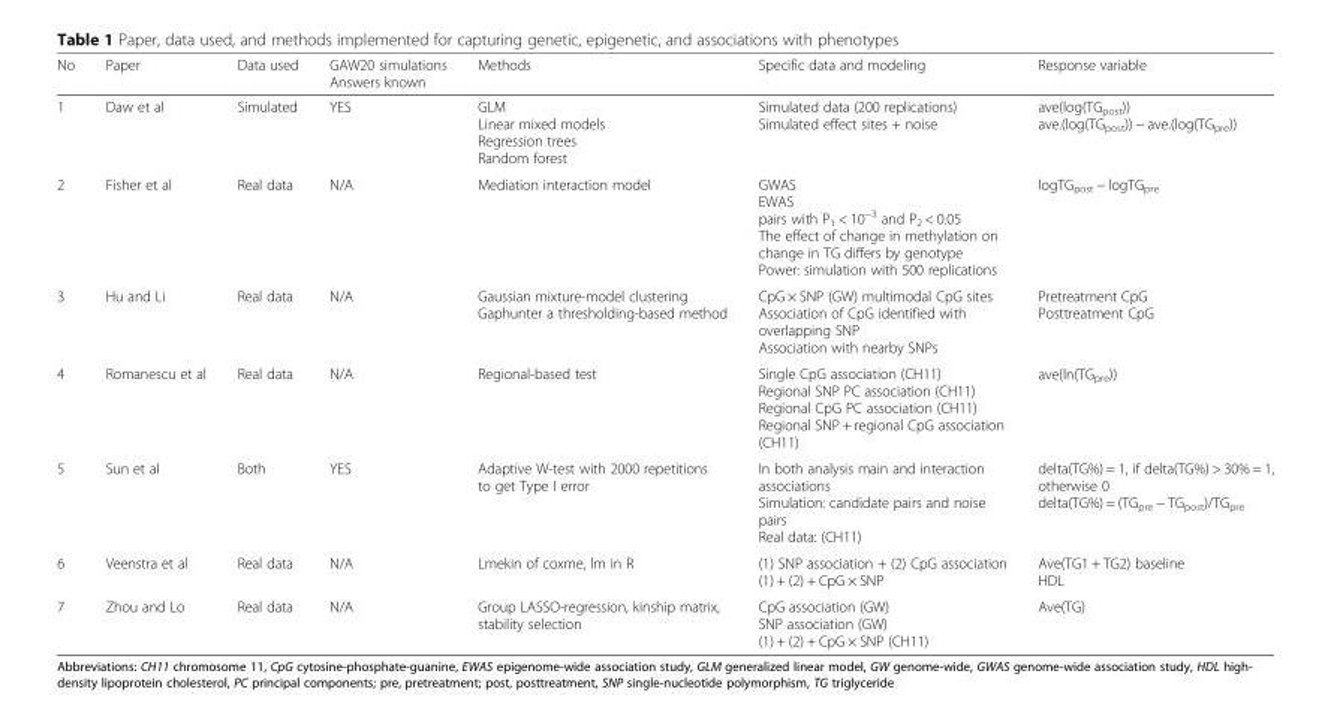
<table><thead><tr><td>No</td><td>Paper</td><td>Data used</td><td>GAW20 simulations Answers known</td><td>Methods</td><td>Specific data and modeling</td><td>Response variable</td></tr></thead><tbody><tr><td>1</td><td>Daw et al</td><td>Simulated</td><td>YES</td><td>GLM Linear mixed models Regression trees Random forest</td><td>Simulated data (200 replications) Simulated effect sites + noise</td><td>ave(log(TG<sub>post</sub>)) ave.(log(TG<sub>post</sub>)) − ave.(log(TG<sub>pre</sub>))</td></tr><tr><td>2</td><td>Fisher et al</td><td>Real data</td><td>N/A</td><td>Mediation interaction model</td><td>GWAS EWAS pairs with P<sub>1</sub> &lt; 10<sup>−3</sup> and P<sub>2</sub> &lt; 0.05 The effect of change in methylation on change in TG differs by genotype Power: simulation with 500 replications</td><td>logTG<sub>post</sub> − logTG<sub>pre</sub></td></tr><tr><td>3</td><td>Hu and Li</td><td>Real data</td><td>N/A</td><td>Gaussian mixture-model clustering Gaphunter a thresholding-based method</td><td>CpG × SNP (GW) multimodal CpG sites Association of CpG identified with overlapping SNP Association with nearby SNPs</td><td>Pretreatment CpG Posttreatment CpG</td></tr><tr><td>4</td><td>Romanescu et al</td><td>Real data</td><td>N/A</td><td>Regional-based test</td><td>Single CpG association (CH11) Regional SNP PC association (CH11) Regional CpG PC association (CH11) Regional SNP + regional CpG association (CH11)</td><td>ave(ln(TG<sub>pre</sub>))</td></tr><tr><td>5</td><td>Sun et al</td><td>Both</td><td>YES</td><td>Adaptive W-test with 2000 repetitions to get Type I error</td><td>In both analysis main and interaction associations Simulation: candidate pairs and noise pairs Real data: (CH11)</td><td>delta(TG%) = 1, if delta(TG%) &gt; 30% = 1, otherwise 0 delta(TG%) = (TG<sub>pre</sub> − TG<sub>post</sub>)/TG<sub>pre</sub></td></tr><tr><td>6</td><td>Veenstra et al</td><td>Real data</td><td>N/A</td><td>Lmekin of coxme, lm in R</td><td>(1) SNP association + (2) CpG association (1) + (2) + CpG × SNP</td><td>Ave(TG1 + TG2) baseline HDL</td></tr><tr><td>7</td><td>Zhou and Lo</td><td>Real data</td><td>N/A</td><td>Group LASSO-regression, kinship matrix, stability selection</td><td>CpG association (GW) SNP association (GW) (1) + (2) + CpG × SNP (CH11)</td><td>Ave(TG)</td></tr></tbody></table>